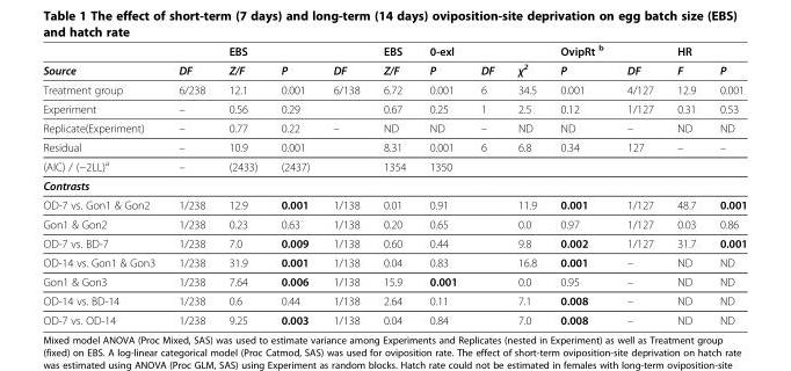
<table><thead><tr><td></td><td></td><td>EBS</td><td></td><td></td><td>EBS</td><td>0-exl</td><td></td><td></td><td>OvipRt <sup>b</sup></td><td></td><td>HR</td><td></td></tr></thead><tbody><tr><td>Source</td><td>DF</td><td>Z/F</td><td>P</td><td>DF</td><td>Z/F</td><td>P</td><td>DF</td><td>χ<sup>2</sup></td><td>P</td><td>DF</td><td>F</td><td>P</td></tr><tr><td>Treatment group</td><td>6/238</td><td>12.1</td><td>0.001</td><td>6/138</td><td>6.72</td><td>0.001</td><td>6</td><td>34.5</td><td>0.001</td><td>4/127</td><td>12.9</td><td>0.001</td></tr><tr><td>Experiment</td><td>–</td><td>0.56</td><td>0.29</td><td></td><td>0.67</td><td>0.25</td><td>1</td><td>2.5</td><td>0.12</td><td>1/127</td><td>0.31</td><td>0.53</td></tr><tr><td>Replicate(Experiment)</td><td>–</td><td>0.77</td><td>0.22</td><td>–</td><td>ND</td><td>ND</td><td>–</td><td>ND</td><td>ND</td><td>–</td><td>ND</td><td>ND</td></tr><tr><td>Residual</td><td>–</td><td>10.9</td><td>0.001</td><td></td><td>8.31</td><td>0.001</td><td>6</td><td>6.8</td><td>0.34</td><td>127</td><td>–</td><td>–</td></tr><tr><td>(AIC) / (−2LL)<sup>a</sup></td><td>–</td><td>(2433)</td><td>(2437)</td><td></td><td>1354</td><td>1350</td><td></td><td></td><td></td><td></td><td></td><td></td></tr><tr><td colspan="13">Contrasts</td></tr><tr><td>OD-7 vs. Gon1 &amp; Gon2</td><td>1/238</td><td>12.9</td><td>0.001</td><td>1/138</td><td>0.01</td><td>0.91</td><td></td><td>11.9</td><td>0.001</td><td>1/127</td><td>48.7</td><td>0.001</td></tr><tr><td>Gon1 &amp; Gon2</td><td>1/238</td><td>0.23</td><td>0.63</td><td>1/138</td><td>0.20</td><td>0.65</td><td></td><td>0.0</td><td>0.97</td><td>1/127</td><td>0.03</td><td>0.86</td></tr><tr><td>OD-7 vs. BD-7</td><td>1/238</td><td>7.0</td><td>0.009</td><td>1/138</td><td>0.60</td><td>0.44</td><td></td><td>9.8</td><td>0.002</td><td>1/127</td><td>31.7</td><td>0.001</td></tr><tr><td>OD-14 vs. Gon1 &amp; Gon3</td><td>1/238</td><td>31.9</td><td>0.001</td><td>1/138</td><td>0.04</td><td>0.83</td><td></td><td>16.8</td><td>0.001</td><td>–</td><td>ND</td><td>ND</td></tr><tr><td>Gon1 &amp; Gon3</td><td>1/238</td><td>7.64</td><td>0.006</td><td>1/138</td><td>15.9</td><td>0.001</td><td></td><td>0.0</td><td>0.95</td><td>–</td><td>ND</td><td>ND</td></tr><tr><td>OD-14 vs. BD-14</td><td>1/238</td><td>0.6</td><td>0.44</td><td>1/138</td><td>2.64</td><td>0.11</td><td></td><td>7.1</td><td>0.008</td><td>–</td><td>ND</td><td>ND</td></tr><tr><td>OD-7 vs. OD-14</td><td>1/238</td><td>9.25</td><td>0.003</td><td>1/138</td><td>0.04</td><td>0.84</td><td></td><td>7.0</td><td>0.008</td><td>–</td><td>ND</td><td>ND</td></tr></tbody></table>